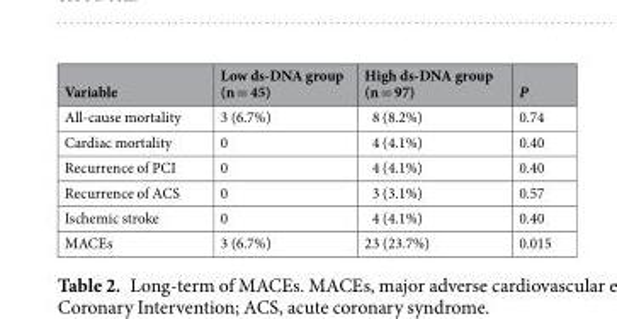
<table><thead><tr><td>Variable</td><td>Low ds-DNA group (n = 45)</td><td>High ds-DNA group (n = 97)</td><td>P</td></tr></thead><tbody><tr><td>All-cause mortality</td><td>3 (6.7%)</td><td>8 (8.2%)</td><td>0.74</td></tr><tr><td>Cardiac mortality</td><td>0</td><td>4 (4.1%)</td><td>0.40</td></tr><tr><td>Recurrence of PCI</td><td>0</td><td>4 (4.1%)</td><td>0.40</td></tr><tr><td>Recurrence of ACS</td><td>0</td><td>3 (3.1%)</td><td>0.57</td></tr><tr><td>Ischemic stroke</td><td>0</td><td>4 (4.1%)</td><td>0.40</td></tr><tr><td>MACEs</td><td>3 (6.7%)</td><td>23 (23.7%)</td><td>0.015</td></tr></tbody></table>